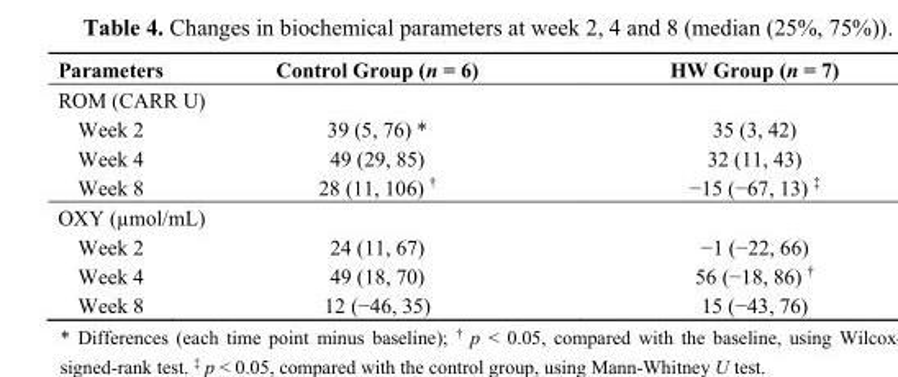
<table><thead><tr><td>Parameters</td><td>Control Group (n = 6)</td><td>HW Group (n = 7)</td></tr></thead><tbody><tr><td colspan="3">ROM (CARR U)</td></tr><tr><td>Week 2</td><td>39 (5, 76) *</td><td>35 (3, 42)</td></tr><tr><td>Week 4</td><td>49 (29, 85)</td><td>32 (11, 43)</td></tr><tr><td>Week 8</td><td>28 (11, 106) <sup>†</sup></td><td>−15 (−67, 13) <sup>‡</sup></td></tr><tr><td colspan="3">OXY (µmol/mL)</td></tr><tr><td>Week 2</td><td>24 (11, 67)</td><td>−1 (−22, 66)</td></tr><tr><td>Week 4</td><td>49 (18, 70)</td><td>56 (−18, 86) <sup>†</sup></td></tr><tr><td>Week 8</td><td>12 (−46, 35)</td><td>15 (−43, 76)</td></tr></tbody></table>